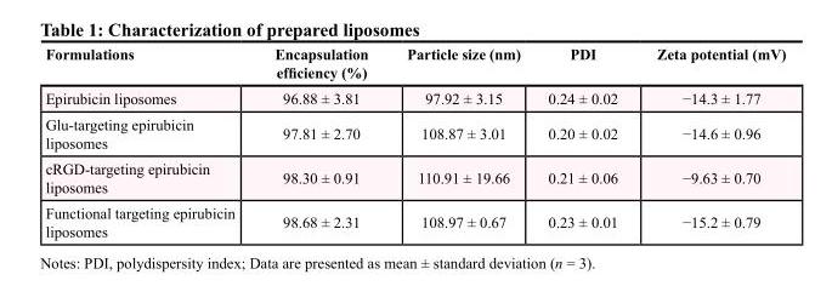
<table><thead><tr><td>Formulations</td><td>Encapsulation efficiency (%)</td><td>Particle size (nm)</td><td>PDI</td><td>Zeta potential (mV)</td></tr></thead><tbody><tr><td>Epirubicin liposomes</td><td>96.88 ± 3.81</td><td>97.92 ± 3.15</td><td>0.24 ± 0.02</td><td>−14.3 ± 1.77</td></tr><tr><td>Glu-targeting epirubicin liposomes</td><td>97.81 ± 2.70</td><td>108.87 ± 3.01</td><td>0.20 ± 0.02</td><td>−14.6 ± 0.96</td></tr><tr><td>cRGD-targeting epirubicin liposomes</td><td>98.30 ± 0.91</td><td>110.91 ± 19.66</td><td>0.21 ± 0.06</td><td>−9.63 ± 0.70</td></tr><tr><td>Functional targeting epirubicin liposomes</td><td>98.68 ± 2.31</td><td>108.97 ± 0.67</td><td>0.23 ± 0.01</td><td>−15.2 ± 0.79</td></tr></tbody></table>